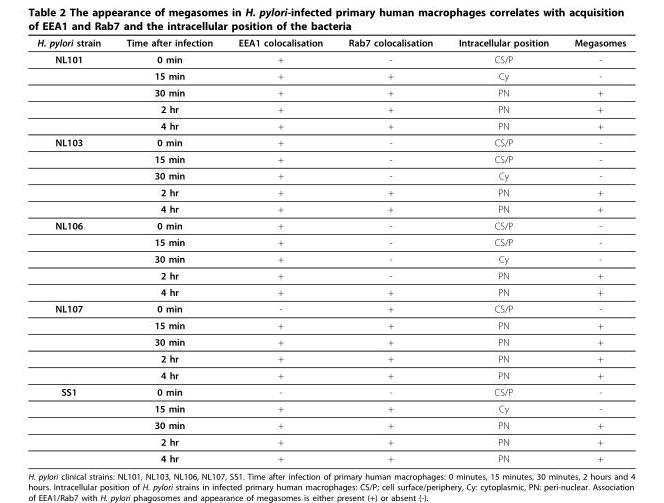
<table><thead><tr><td>H. pylori strain</td><td>Time after infection</td><td>EEA1 colocalisation</td><td>Rab7 colocalisation</td><td>Intracellular position</td><td>Megasomes</td></tr></thead><tbody><tr><td rowspan="5">NL101</td><td>0 min</td><td>+</td><td>-</td><td>CS/P</td><td>-</td></tr><tr><td>15 min</td><td>+</td><td>+</td><td>Cy</td><td>-</td></tr><tr><td>30 min</td><td>+</td><td>+</td><td>PN</td><td>+</td></tr><tr><td>2 hr</td><td>+</td><td>+</td><td>PN</td><td>+</td></tr><tr><td>4 hr</td><td>+</td><td>+</td><td>PN</td><td>+</td></tr><tr><td rowspan="5">NL103</td><td>0 min</td><td>+</td><td>-</td><td>CS/P</td><td>-</td></tr><tr><td>15 min</td><td>+</td><td>-</td><td>CS/P</td><td>-</td></tr><tr><td>30 min</td><td>+</td><td>-</td><td>Cy</td><td>-</td></tr><tr><td>2 hr</td><td>+</td><td>+</td><td>PN</td><td>+</td></tr><tr><td>4 hr</td><td>+</td><td>+</td><td>PN</td><td>+</td></tr><tr><td rowspan="5">NL106</td><td>0 min</td><td>+</td><td>-</td><td>CS/P</td><td>-</td></tr><tr><td>15 min</td><td>+</td><td>-</td><td>CS/P</td><td>-</td></tr><tr><td>30 min</td><td>+</td><td>-</td><td>Cy</td><td>-</td></tr><tr><td>2 hr</td><td>+</td><td>-</td><td>PN</td><td>+</td></tr><tr><td>4 hr</td><td>+</td><td>+</td><td>PN</td><td>+</td></tr><tr><td rowspan="5">NL107</td><td>0 min</td><td>-</td><td>+</td><td>CS/P</td><td>-</td></tr><tr><td>15 min</td><td>+</td><td>+</td><td>PN</td><td>+</td></tr><tr><td>30 min</td><td>+</td><td>+</td><td>PN</td><td>+</td></tr><tr><td>2 hr</td><td>+</td><td>+</td><td>PN</td><td>+</td></tr><tr><td>4 hr</td><td>+</td><td>+</td><td>PN</td><td>+</td></tr><tr><td rowspan="5">SS1</td><td>0 min</td><td>-</td><td>-</td><td>CS/P</td><td>-</td></tr><tr><td>15 min</td><td>+</td><td>+</td><td>Cy</td><td>-</td></tr><tr><td>30 min</td><td>+</td><td>+</td><td>PN</td><td>+</td></tr><tr><td>2 hr</td><td>+</td><td>+</td><td>PN</td><td>+</td></tr><tr><td>4 hr</td><td>+</td><td>+</td><td>PN</td><td>+</td></tr></tbody></table>